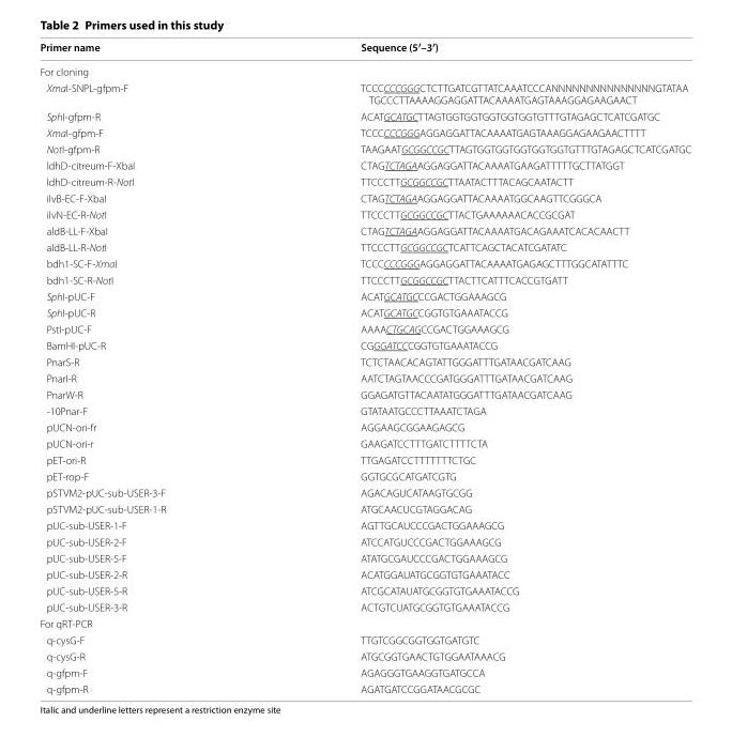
<table><thead><tr><td>Primer name</td><td>Sequence (5′–3′)</td></tr></thead><tbody><tr><td colspan="2">For cloning</td></tr><tr><td>XmaI-SNPL-gfpm-F</td><td>TCCC CCC GGG CTC TTG ATC GTT ATC AAA TCCCANNNNNNNNNNNNNNNGTA TAA TGC CCT TAA AAG GAG GAT TAC AAA ATG AGT AAA GGA GAA GAA CT</td></tr><tr><td>SphI-gfpm-R</td><td>ACAT GCA TGC TTA GTG GTG GTG GTG GTG GTG TTT GTA GAG CTC ATC GATGC</td></tr><tr><td>XmaI-gfpm-F</td><td>TCCC CCC GGG AGG AGG ATT ACA AAA TGA GTA AAG GAG AAG AAC TTT T</td></tr><tr><td>NotI-gfpm-R</td><td>TAA GAA TGCG GCC GCTTA GTG GTG GTG GTG GTG GTG TTT GTA GAG CTC ATC GATGC</td></tr><tr><td>ldhD-citreum-F-XbaI</td><td>CTAG TCT AGA AGG AGG ATT ACA AAA TGA AGA TTT TTG CTT ATGGT</td></tr><tr><td>ldhD-citreum-R-NotI</td><td>TTC CCT TGCG GCC GCTTA ATA CTT TAC AGC AAT ACTT</td></tr><tr><td>ilvB-EC-F-XbaI</td><td>CTAG TCT AGA AGG AGG ATT ACA AAA TGG CAA GTT CGG GCA</td></tr><tr><td>ilvN-EC-R-NotI</td><td>TTC CCT TGCG GCC GCTTA CTG AAA AAA CAC CGC GAT</td></tr><tr><td>aldB-LL-F-XbaI</td><td>CTAG TCT AGA AGG AGG ATT ACA AAA TGA CAG AAA TCA CAC AACTT</td></tr><tr><td>aldB-LL-R-NotI</td><td>TTC CCT TGCG GCC GCTCA TTC AGC TAC ATC GAT ATC</td></tr><tr><td>bdh1-SC-F-XmaI</td><td>TCCC CCC GGG AGG AGG ATT ACA AAA TGA GAG CTT TGG CAT ATTTC</td></tr><tr><td>bdh1-SC-R-NotI</td><td>TTC CCT TGCG GCC GCTTA CTT CAT TTC ACC GTG ATT</td></tr><tr><td>SphI-pUC-F</td><td>ACAT GCA TGC CCG ACT GGA AAG CG</td></tr><tr><td>SphI-pUC-R</td><td>ACAT GCA TGC CGG TGT GAA ATA CCG</td></tr><tr><td>PstI-pUC-F</td><td>AAAA CTG CAG CCG ACT GGA AAG CG</td></tr><tr><td>BamHI-pUC-R</td><td>CGGGA TCC CGG TGT GAA ATA CCG</td></tr><tr><td>PnarS-R</td><td>TCT CTA ACA CAG TAT TGG GAT TTG ATA ACG ATC AAG</td></tr><tr><td>PnarI-R</td><td>AAT CTA GTA ACC CGA TGG GAT TTG ATA ACG ATC AAG</td></tr><tr><td>PnarW-R</td><td>GGA GAT GTT ACA ATA TGG GAT TTG ATA ACG ATC AAG</td></tr><tr><td>-10Pnar-F</td><td>GTA TAA TGC CCT TAA ATC TAGA</td></tr><tr><td>pUCN-ori-fr</td><td>AGG AAG CGG AAG AGCG</td></tr><tr><td>pUCN-ori-r</td><td>GAA GAT CCT TTG ATC TTT TCTA</td></tr><tr><td>pET-ori-R</td><td>TTG AGA TCC TTT TTT TCT GC</td></tr><tr><td>pET-rop-F</td><td>GGT GCG CAT GAT CGTG</td></tr><tr><td>pSTVM2-pUC-sub-USER-3-F</td><td>AGA CAG UCA TAA GTG CGG</td></tr><tr><td>pSTVM2-pUC-sub-USER-1-R</td><td>ATG CAA CUC GTA GGA CAG</td></tr><tr><td>pUC-sub-USER-1-F</td><td>AGT TGC AUC CCG ACT GGA AAGCG</td></tr><tr><td>pUC-sub-USER-2-F</td><td>ATC CAT GUC CCG ACT GGA AAGCG</td></tr><tr><td>pUC-sub-USER-5-F</td><td>ATA TGC GAU CCC GAC TGG AAA GCG</td></tr><tr><td>pUC-sub-USER-2-R</td><td>ACA TGG AUA TGC GGT GTG AAA TAC C</td></tr><tr><td>pUC-sub-USER-5-R</td><td>ATC GCA TAU ATG CGG TGT GAA ATA CCG</td></tr><tr><td>pUC-sub-USER-3-R</td><td>ACT GTC UAT GCG GTG TGA AAT ACC G</td></tr><tr><td colspan="2">For qRT-PCR</td></tr><tr><td>q-cysG-F</td><td>TTG TCG GCG GTG GTG ATG TC</td></tr><tr><td>q-cysG-R</td><td>ATG CGG TGA ACT GTG GAA TAA ACG</td></tr><tr><td>q-gfpm-F</td><td>AGA GGG TGA AGG TGA TGC CA</td></tr><tr><td>q-gfpm-R</td><td>AGA TGA TCC GGA TAA CGC GC</td></tr></tbody></table>